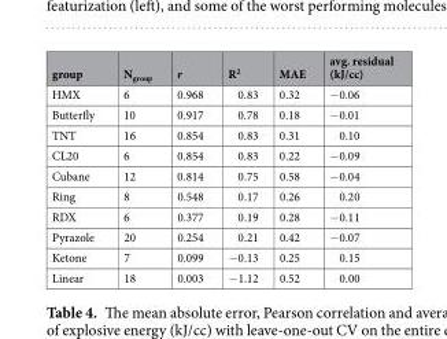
<table><thead><tr><td>group</td><td>N<sub>group</sub></td><td>r</td><td>R<sup>2</sup></td><td>MAE</td><td>avg. residual (kJ/cc)</td></tr></thead><tbody><tr><td>HMX</td><td>6</td><td>0.968</td><td>0.83</td><td>0.32</td><td>−0.06</td></tr><tr><td>Butterfly</td><td>10</td><td>0.917</td><td>0.78</td><td>0.18</td><td>−0.01</td></tr><tr><td>TNT</td><td>16</td><td>0.854</td><td>0.83</td><td>0.31</td><td>0.10</td></tr><tr><td>CL20</td><td>6</td><td>0.854</td><td>0.83</td><td>0.22</td><td>−0.09</td></tr><tr><td>Cubane</td><td>12</td><td>0.814</td><td>0.75</td><td>0.58</td><td>−0.04</td></tr><tr><td>Ring</td><td>8</td><td>0.548</td><td>0.17</td><td>0.26</td><td>0.20</td></tr><tr><td>RDX</td><td>6</td><td>0.377</td><td>0.19</td><td>0.28</td><td>−0.11</td></tr><tr><td>Pyrazole</td><td>20</td><td>0.254</td><td>0.21</td><td>0.42</td><td>−0.07</td></tr><tr><td>Ketone</td><td>7</td><td>0.099</td><td>−0.13</td><td>0.25</td><td>0.15</td></tr><tr><td>Linear</td><td>18</td><td>0.003</td><td>−1.12</td><td>0.52</td><td>0.00</td></tr></tbody></table>